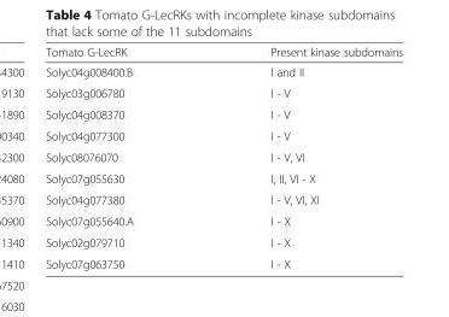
<table><thead><tr><td>Tomato G-LecRK</td><td>Present kinase subdomains</td></tr></thead><tbody><tr><td>Solyc04g008400.B</td><td>I and II</td></tr><tr><td>Solyc03g006780</td><td>I - V</td></tr><tr><td>Solyc04g008370</td><td>I - V</td></tr><tr><td>Solyc04g077300</td><td>I - V</td></tr><tr><td>Solyc08076070</td><td>I - V, VI</td></tr><tr><td>Solyc07g055630</td><td>I, II, VI - X</td></tr><tr><td>Solyc04g077380</td><td>I - V, VI, XI</td></tr><tr><td>Solyc07g055640.A</td><td>I - X</td></tr><tr><td>Solyc02g079710</td><td>I - X</td></tr><tr><td>Solyc07g063750</td><td>I - X</td></tr></tbody></table>